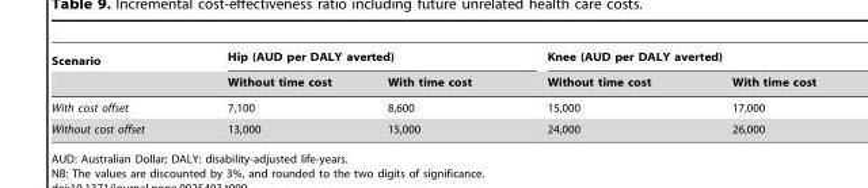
<table><thead><tr><td rowspan="2">Scenario</td><td colspan="2">Hip (AUD per DALY averted)</td><td colspan="2">Knee (AUD per DALY averted)</td></tr><tr><td>Without time cost</td><td>With time cost</td><td>Without time cost</td><td>With time cost</td></tr></thead><tbody><tr><td>With cost offset</td><td>7,100</td><td>8,600</td><td>15,000</td><td>17,000</td></tr><tr><td>Without cost offset</td><td>13,000</td><td>15,000</td><td>24,000</td><td>26,000</td></tr></tbody></table>